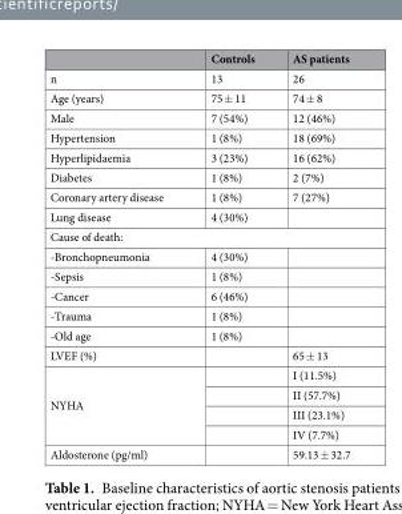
<table><thead><tr><td></td><td>Controls</td><td>AS patients</td></tr></thead><tbody><tr><td>n</td><td>13</td><td>26</td></tr><tr><td>Age (years)</td><td>75 ± 11</td><td>74 ± 8</td></tr><tr><td>Male</td><td>7 (54%)</td><td>12 (46%)</td></tr><tr><td>Hypertension</td><td>1 (8%)</td><td>18 (69%)</td></tr><tr><td>Hyperlipidaemia</td><td>3 (23%)</td><td>16 (62%)</td></tr><tr><td>Diabetes</td><td>1 (8%)</td><td>2 (7%)</td></tr><tr><td>Coronary artery disease</td><td>1 (8%)</td><td>7 (27%)</td></tr><tr><td>Lung disease</td><td>4 (30%)</td><td></td></tr><tr><td colspan="3">Cause of death:</td></tr><tr><td>-Bronchopneumonia</td><td>4 (30%)</td><td></td></tr><tr><td>-Sepsis</td><td>1 (8%)</td><td></td></tr><tr><td>-Cancer</td><td>6 (46%)</td><td></td></tr><tr><td>-Trauma</td><td>1 (8%)</td><td></td></tr><tr><td>-Old age</td><td>1 (8%)</td><td></td></tr><tr><td>LVEF (%)</td><td></td><td>65 ± 13</td></tr><tr><td rowspan="4">NYHA</td><td></td><td>I (11.5%)</td></tr><tr><td></td><td>II (57.7%)</td></tr><tr><td></td><td>III (23.1%)</td></tr><tr><td></td><td>IV (7.7%)</td></tr><tr><td>Aldosterone (pg/ml)</td><td></td><td>59.13 ± 32.7</td></tr></tbody></table>